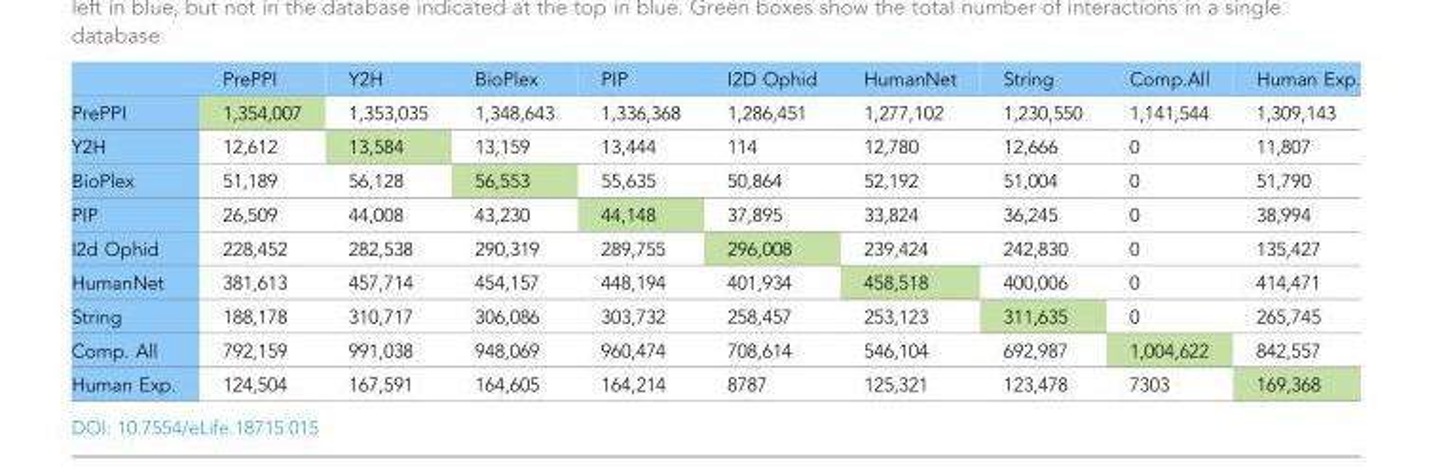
<table><thead><tr><td></td><td>PrePPI</td><td>Y2H</td><td>BioPlex</td><td>PIP</td><td>I2D Ophid</td><td>HumanNet</td><td>String</td><td>Comp.All</td><td>Human Exp.</td></tr></thead><tbody><tr><td>PrePPI</td><td>1,354,007</td><td>1,353,035</td><td>1,348,643</td><td>1,336,368</td><td>1,286,451</td><td>1,277,102</td><td>1,230,550</td><td>1,141,544</td><td>1,309,143</td></tr><tr><td>Y2H</td><td>12,612</td><td>13,584</td><td>13,159</td><td>13,444</td><td>114</td><td>12,780</td><td>12,666</td><td>0</td><td>11,807</td></tr><tr><td>BioPlex</td><td>51,189</td><td>56,128</td><td>56,553</td><td>55,635</td><td>50,864</td><td>52,192</td><td>51,004</td><td>0</td><td>51,790</td></tr><tr><td>PIP</td><td>26,509</td><td>44,008</td><td>43,230</td><td>44,148</td><td>37,895</td><td>33,824</td><td>36,245</td><td>0</td><td>38,994</td></tr><tr><td>I2d Ophid</td><td>228,452</td><td>282,538</td><td>290,319</td><td>289,755</td><td>296,008</td><td>239,424</td><td>242,830</td><td>0</td><td>135,427</td></tr><tr><td>HumanNet</td><td>381,613</td><td>457,714</td><td>454,157</td><td>448,194</td><td>401,934</td><td>458,518</td><td>400,006</td><td>0</td><td>414,471</td></tr><tr><td>String</td><td>188,178</td><td>310,717</td><td>306,086</td><td>303,732</td><td>258,457</td><td>253,123</td><td>311,635</td><td>0</td><td>265,745</td></tr><tr><td>Comp. All</td><td>792,159</td><td>991,038</td><td>948,069</td><td>960,474</td><td>708,614</td><td>546,104</td><td>692,987</td><td>1,004,622</td><td>842,557</td></tr><tr><td>Human Exp.</td><td>124,504</td><td>167,591</td><td>164,605</td><td>164,214</td><td>8787</td><td>125,321</td><td>123,478</td><td>7303</td><td>169,368</td></tr></tbody></table>